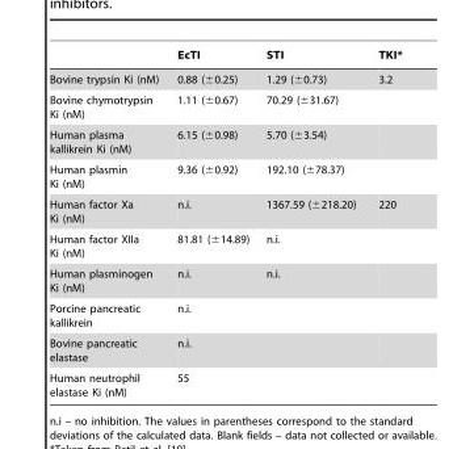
<table><thead><tr><td></td><td>EcTI</td><td>STI</td><td>TKI*</td></tr></thead><tbody><tr><td>Bovine trypsin Ki (nM)</td><td>0.88 (±0.25)</td><td>1.29 (±0.73)</td><td>3.2</td></tr><tr><td>Bovine chymotrypsin Ki (nM)</td><td>1.11 (±0.67)</td><td>70.29 (±31.67)</td><td></td></tr><tr><td>Human plasma kallikrein Ki (nM)</td><td>6.15 (±0.98)</td><td>5.70 (±3.54)</td><td></td></tr><tr><td>Human plasmin Ki (nM)</td><td>9.36 (±0.92)</td><td>192.10 (±78.37)</td><td></td></tr><tr><td>Human factor Xa Ki (nM)</td><td>n.i.</td><td>1367.59 (±218.20)</td><td>220</td></tr><tr><td>Human factor XIIa Ki (nM)</td><td>81.81 (±14.89)</td><td>n.i.</td><td></td></tr><tr><td>Human plasminogen Ki (nM)</td><td>n.i.</td><td>n.i.</td><td></td></tr><tr><td>Porcine pancreatic kallikrein</td><td>n.i.</td><td></td><td></td></tr><tr><td>Bovine pancreatic elastase</td><td>n.i.</td><td></td><td></td></tr><tr><td>Human neutrophil elastase Ki (nM)</td><td>55</td><td></td><td></td></tr></tbody></table>